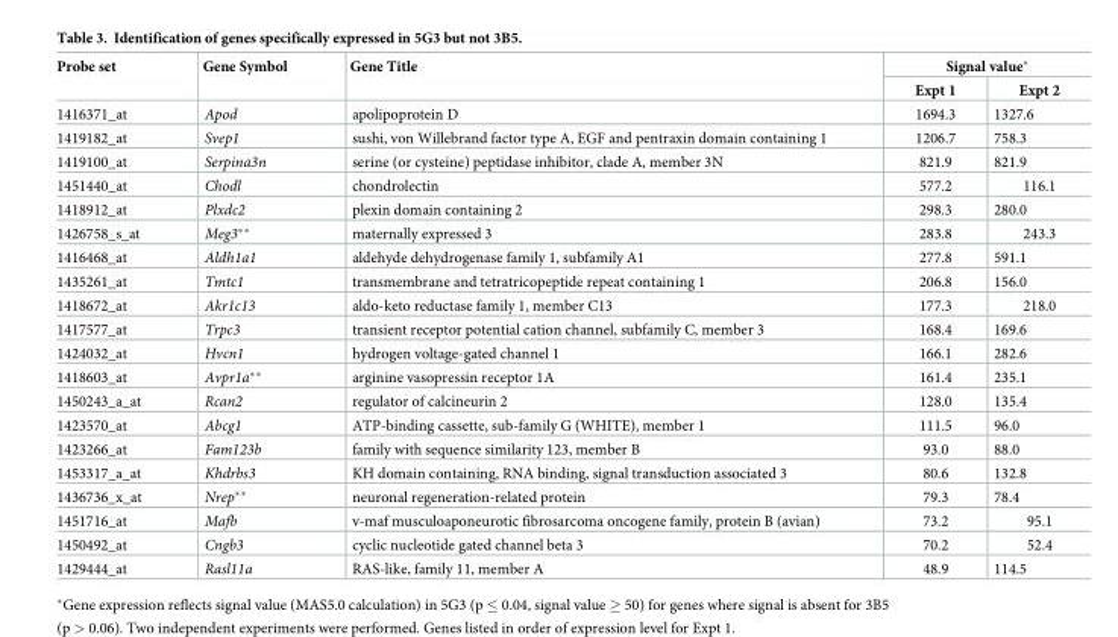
<table><thead><tr><td rowspan="2">Probe set</td><td rowspan="2">Gene Symbol</td><td rowspan="2">Gene Title</td><td colspan="2">Signal value*</td></tr><tr><td>Expt 1</td><td>Expt 2</td></tr></thead><tbody><tr><td>1416371_at</td><td>Apod</td><td>apolipoprotein D</td><td>1694.3</td><td>1327.6</td></tr><tr><td>1419182_at</td><td>Svep1</td><td>sushi, von Willebrand factor type A, EGF and pentraxin domain containing 1</td><td>1206.7</td><td>758.3</td></tr><tr><td>1419100_at</td><td>Serpina3n</td><td>serine (or cysteine) peptidase inhibitor, clade A, member 3N</td><td>821.9</td><td>821.9</td></tr><tr><td>1451440_at</td><td>Chodl</td><td>chondrolectin</td><td>577.2</td><td>116.1</td></tr><tr><td>1418912_at</td><td>Plxdc2</td><td>plexin domain containing 2</td><td>298.3</td><td>280.0</td></tr><tr><td>1426758_s_at</td><td>Meg3**</td><td>maternally expressed 3</td><td>283.8</td><td>243.3</td></tr><tr><td>1416468_at</td><td>Aldh1a1</td><td>aldehyde dehydrogenase family 1, subfamily A1</td><td>277.8</td><td>591.1</td></tr><tr><td>1435261_at</td><td>Tmtc1</td><td>transmembrane and tetratricopeptide repeat containing 1</td><td>206.8</td><td>156.0</td></tr><tr><td>1418672_at</td><td>Akr1c13</td><td>aldo-keto reductase family 1, member C13</td><td>177.3</td><td>218.0</td></tr><tr><td>1417577_at</td><td>Trpc3</td><td>transient receptor potential cation channel, subfamily C, member 3</td><td>168.4</td><td>169.6</td></tr><tr><td>1424032_at</td><td>Hvcn1</td><td>hydrogen voltage-gated channel 1</td><td>166.1</td><td>282.6</td></tr><tr><td>1418603_at</td><td>Avpr1a**</td><td>arginine vasopressin receptor 1A</td><td>161.4</td><td>235.1</td></tr><tr><td>1450243_a_at</td><td>Rcan2</td><td>regulator of calcineurin 2</td><td>128.0</td><td>135.4</td></tr><tr><td>1423570_at</td><td>Abcg1</td><td>ATP-binding cassette, sub-family G (WHITE), member 1</td><td>111.5</td><td>96.0</td></tr><tr><td>1423266_at</td><td>Fam123b</td><td>family with sequence similarity 123, member B</td><td>93.0</td><td>88.0</td></tr><tr><td>1453317_a_at</td><td>Khdrbs3</td><td>KH domain containing, RNA binding, signal transduction associated 3</td><td>80.6</td><td>132.8</td></tr><tr><td>1436736_x_at</td><td>Nrep**</td><td>neuronal regeneration-related protein</td><td>79.3</td><td>78.4</td></tr><tr><td>1451716_at</td><td>Mafb</td><td>v-maf musculoaponeurotic fibrosarcoma oncogene family, protein B (avian)</td><td>73.2</td><td>95.1</td></tr><tr><td>1450492_at</td><td>Cngb3</td><td>cyclic nucleotide gated channel beta 3</td><td>70.2</td><td>52.4</td></tr><tr><td>1429444_at</td><td>Rasl11a</td><td>RAS-like, family 11, member A</td><td>48.9</td><td>114.5</td></tr></tbody></table>